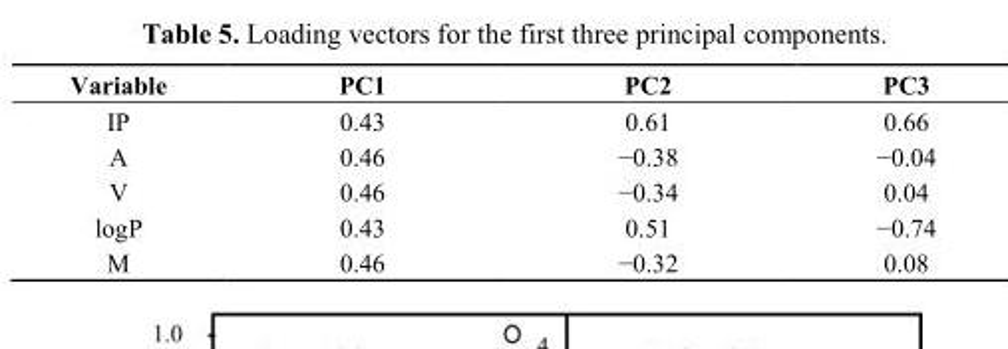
<table><thead><tr><td>Variable</td><td>PC1</td><td>PC2</td><td>PC3</td></tr></thead><tbody><tr><td>IP</td><td>0.43</td><td>0.61</td><td>0.66</td></tr><tr><td>A</td><td>0.46</td><td>−0.38</td><td>−0.04</td></tr><tr><td>V</td><td>0.46</td><td>−0.34</td><td>0.04</td></tr><tr><td>logP</td><td>0.43</td><td>0.51</td><td>−0.74</td></tr><tr><td>M</td><td>0.46</td><td>−0.32</td><td>0.08</td></tr></tbody></table>